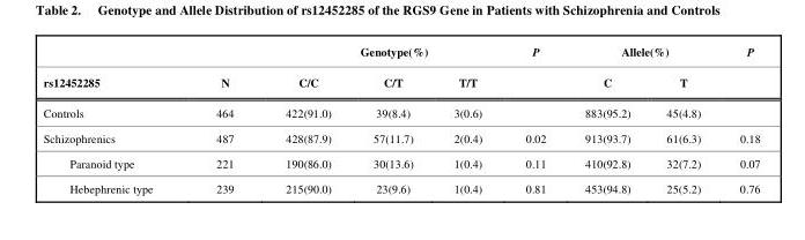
<table><thead><tr><td rowspan="2">rs12452285</td><td rowspan="2">N</td><td rowspan="2">C/C</td><td rowspan="2">Genotype(%) C/T</td><td rowspan="2">T/T</td><td rowspan="2">P</td><td colspan="2">Allele(%)</td><td rowspan="2">P</td></tr><tr><td>C</td><td>T</td></tr></thead><tbody><tr><td>Controls</td><td>464</td><td>422(91.0)</td><td>39(8.4)</td><td>3(0.6)</td><td></td><td>883(95.2)</td><td>45(4.8)</td><td></td></tr><tr><td>Schizophrenics</td><td>487</td><td>428(87.9)</td><td>57(11.7)</td><td>2(0.4)</td><td>0.02</td><td>913(93.7)</td><td>61(6.3)</td><td>0.18</td></tr><tr><td>Paranoid type</td><td>221</td><td>190(86.0)</td><td>30(13.6)</td><td>1(0.4)</td><td>0.11</td><td>410(92.8)</td><td>32(7.2)</td><td>0.07</td></tr><tr><td>Hebephrenic type</td><td>239</td><td>215(90.0)</td><td>23(9.6)</td><td>1(0.4)</td><td>0.81</td><td>453(94.8)</td><td>25(5.2)</td><td>0.76</td></tr></tbody></table>